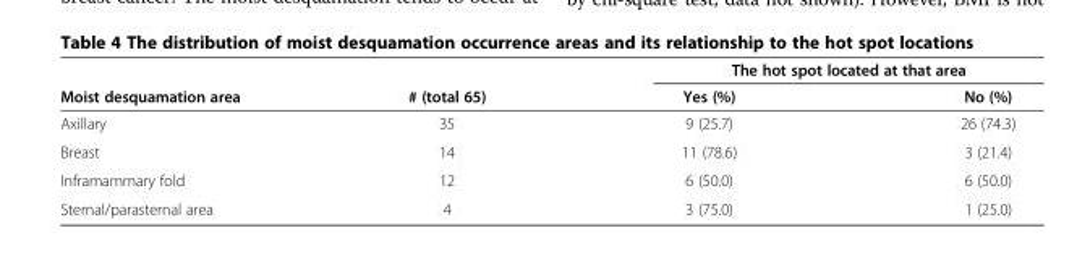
<table><thead><tr><td rowspan="2">Moist desquamation area</td><td rowspan="2"># (total 65)</td><td colspan="2">The hot spot located at that area</td></tr><tr><td>Yes (%)</td><td>No (%)</td></tr></thead><tbody><tr><td>Axillary</td><td>35</td><td>9 (25.7)</td><td>26 (74.3)</td></tr><tr><td>Breast</td><td>14</td><td>11 (78.6)</td><td>3 (21.4)</td></tr><tr><td>Inframammary fold</td><td>12</td><td>6 (50.0)</td><td>6 (50.0)</td></tr><tr><td>Sternal/parasternal area</td><td>4</td><td>3 (75.0)</td><td>1 (25.0)</td></tr></tbody></table>